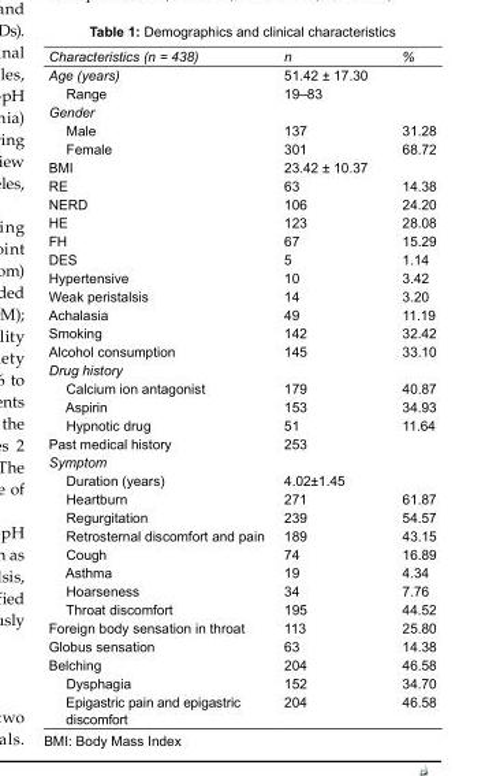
<table><tbody><tr><td>Characteristics (n = 438)</td><td>n</td><td>%</td></tr><tr><td>Age (years)</td><td>51.42 ± 17.30</td><td></td></tr><tr><td>Range</td><td>19–83</td><td></td></tr><tr><td colspan="3">Gender</td></tr><tr><td>Male</td><td>137</td><td>31.28</td></tr><tr><td>Female</td><td>301</td><td>68.72</td></tr><tr><td>BMI</td><td>23.42 ± 10.37</td><td></td></tr><tr><td>RE</td><td>63</td><td>14.38</td></tr><tr><td>NERD</td><td>106</td><td>24.20</td></tr><tr><td>HE</td><td>123</td><td>28.08</td></tr><tr><td>FH</td><td>67</td><td>15.29</td></tr><tr><td>DES</td><td>5</td><td>1.14</td></tr><tr><td>Hypertensive</td><td>10</td><td>3.42</td></tr><tr><td>Weak peristalsis</td><td>14</td><td>3.20</td></tr><tr><td>Achalasia</td><td>49</td><td>11.19</td></tr><tr><td>Smoking</td><td>142</td><td>32.42</td></tr><tr><td>Alcohol consumption</td><td>145</td><td>33.10</td></tr><tr><td colspan="3">Drug history</td></tr><tr><td>Calcium ion antagonist</td><td>179</td><td>40.87</td></tr><tr><td>Aspirin</td><td>153</td><td>34.93</td></tr><tr><td>Hypnotic drug</td><td>51</td><td>11.64</td></tr><tr><td>Past medical history</td><td>253</td><td></td></tr><tr><td colspan="3">Symptom</td></tr><tr><td>Duration (years)</td><td>4.02±1.45</td><td></td></tr><tr><td>Heartburn</td><td>271</td><td>61.87</td></tr><tr><td>Regurgitation</td><td>239</td><td>54.57</td></tr><tr><td>Retrosternal discomfort and pain</td><td>189</td><td>43.15</td></tr><tr><td>Cough</td><td>74</td><td>16.89</td></tr><tr><td>Asthma</td><td>19</td><td>4.34</td></tr><tr><td>Hoarseness</td><td>34</td><td>7.76</td></tr><tr><td>Throat discomfort</td><td>195</td><td>44.52</td></tr><tr><td>Foreign body sensation in throat</td><td>113</td><td>25.80</td></tr><tr><td>Globus sensation</td><td>63</td><td>14.38</td></tr><tr><td>Belching</td><td>204</td><td>46.58</td></tr><tr><td>Dysphagia</td><td>152</td><td>34.70</td></tr><tr><td>Epigastric pain and epigastric discomfort</td><td>204</td><td>46.58</td></tr></tbody></table>